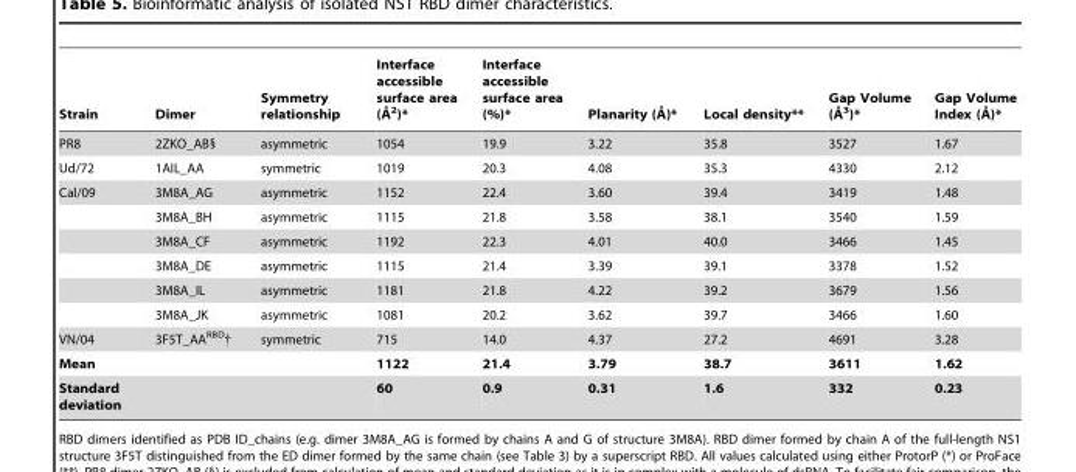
<table><thead><tr><td>Strain</td><td>Dimer</td><td>Symmetry relationship</td><td>Interface accessible surface area (A˚ 2)*</td><td>Interface accessible surface area (%)*</td><td>Planarity (A˚ )*</td><td>Local density**</td><td>Gap Volume (A˚ 3)*</td><td>Gap Volume Index (A˚ )*</td></tr></thead><tbody><tr><td>PR8</td><td>2ZKO_AB§</td><td>asymmetric</td><td>1054</td><td>19.9</td><td>3.22</td><td>35.8</td><td>3527</td><td>1.67</td></tr><tr><td>Ud/72</td><td>1AIL_AA</td><td>symmetric</td><td>1019</td><td>20.3</td><td>4.08</td><td>35.3</td><td>4330</td><td>2.12</td></tr><tr><td rowspan="6">Cal/09</td><td>3M8A_AG</td><td>asymmetric</td><td>1152</td><td>22.4</td><td>3.60</td><td>39.4</td><td>3419</td><td>1.48</td></tr><tr><td>3M8A_BH</td><td>asymmetric</td><td>1115</td><td>21.8</td><td>3.58</td><td>38.1</td><td>3540</td><td>1.59</td></tr><tr><td>3M8A_CF</td><td>asymmetric</td><td>1192</td><td>22.3</td><td>4.01</td><td>40.0</td><td>3466</td><td>1.45</td></tr><tr><td>3M8A_DE</td><td>asymmetric</td><td>1115</td><td>21.4</td><td>3.39</td><td>39.1</td><td>3378</td><td>1.52</td></tr><tr><td>3M8A_IL</td><td>asymmetric</td><td>1181</td><td>21.8</td><td>4.22</td><td>39.2</td><td>3679</td><td>1.56</td></tr><tr><td>3M8A_JK</td><td>asymmetric</td><td>1081</td><td>20.2</td><td>3.62</td><td>39.7</td><td>3466</td><td>1.60</td></tr><tr><td>VN/04</td><td>3F5T_AA<sup>RBD</sup>†</td><td>symmetric</td><td>715</td><td>14.0</td><td>4.37</td><td>27.2</td><td>4691</td><td>3.28</td></tr><tr><td>Mean</td><td></td><td></td><td>1122</td><td>21.4</td><td>3.79</td><td>38.7</td><td>3611</td><td>1.62</td></tr><tr><td>Standard deviation</td><td></td><td></td><td>60</td><td>0.9</td><td>0.31</td><td>1.6</td><td>332</td><td>0.23</td></tr></tbody></table>